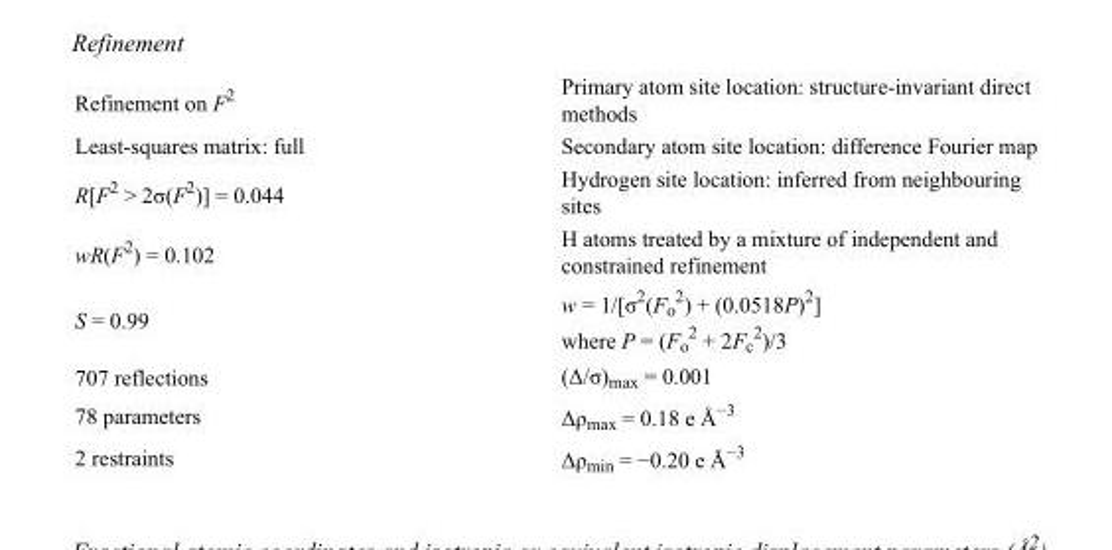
<table><tbody><tr><td>Refinement on F<sup>2</sup></td><td>Primary atom site location: structure-invariant direct methods</td></tr><tr><td>Least-squares matrix: full</td><td>Secondary atom site location: difference Fourier map</td></tr><tr><td>R[F<sup>2</sup> &gt; 2σ(F<sup>2</sup>)] = 0.044</td><td>Hydrogen site location: inferred from neighbouring sites</td></tr><tr><td>wR(F<sup>2</sup>) = 0.102</td><td>H atoms treated by a mixture of independent and constrained refinement</td></tr><tr><td>S = 0.99</td><td>w = 1/[σ<sup>2</sup>(F<sub>o</sub> <sup>2</sup>) + (0.0518P)<sup>2</sup>] where P = (F<sub>o</sub> <sup>2</sup> + 2F<sub>c</sub> <sup>2</sup>)/3</td></tr><tr><td>707 reflections</td><td>(Δ/σ)<sub>max</sub> = 0.001</td></tr><tr><td>78 parameters</td><td>Δρ<sub>max</sub> = 0.18 e Å<sup>−3</sup></td></tr><tr><td>2 restraints</td><td>Δρ<sub>min</sub> = −0.20 e Å<sup>−3</sup></td></tr></tbody></table>